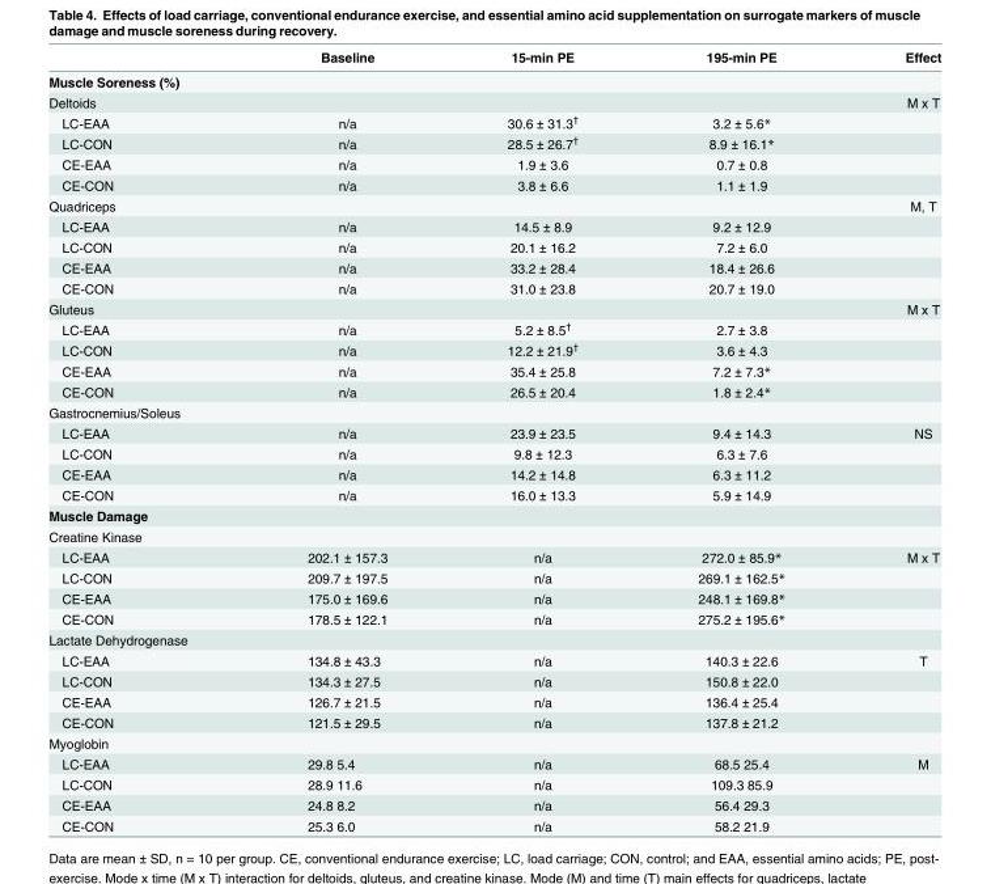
<table><thead><tr><td></td><td>Baseline</td><td>15-min PE</td><td>195-min PE</td><td>Effect</td></tr></thead><tbody><tr><td colspan="5">Muscle Soreness (%)</td></tr><tr><td>Deltoids</td><td></td><td></td><td></td><td>M x T</td></tr><tr><td>LC-EAA</td><td>n/a</td><td>30.6 ± 31.3<sup>†</sup></td><td>3.2 ± 5.6*</td><td></td></tr><tr><td>LC-CON</td><td>n/a</td><td>28.5 ± 26.7<sup>†</sup></td><td>8.9 ± 16.1*</td><td></td></tr><tr><td>CE-EAA</td><td>n/a</td><td>1.9 ± 3.6</td><td>0.7 ± 0.8</td><td></td></tr><tr><td>CE-CON</td><td>n/a</td><td>3.8 ± 6.6</td><td>1.1 ± 1.9</td><td></td></tr><tr><td>Quadriceps</td><td></td><td></td><td></td><td>M, T</td></tr><tr><td>LC-EAA</td><td>n/a</td><td>14.5 ± 8.9</td><td>9.2 ± 12.9</td><td></td></tr><tr><td>LC-CON</td><td>n/a</td><td>20.1 ± 16.2</td><td>7.2 ± 6.0</td><td></td></tr><tr><td>CE-EAA</td><td>n/a</td><td>33.2 ± 28.4</td><td>18.4 ± 26.6</td><td></td></tr><tr><td>CE-CON</td><td>n/a</td><td>31.0 ± 23.8</td><td>20.7 ± 19.0</td><td></td></tr><tr><td>Gluteus</td><td></td><td></td><td></td><td>M x T</td></tr><tr><td>LC-EAA</td><td>n/a</td><td>5.2 ± 8.5<sup>†</sup></td><td>2.7 ± 3.8</td><td></td></tr><tr><td>LC-CON</td><td>n/a</td><td>12.2 ± 21.9<sup>†</sup></td><td>3.6 ± 4.3</td><td></td></tr><tr><td>CE-EAA</td><td>n/a</td><td>35.4 ± 25.8</td><td>7.2 ± 7.3*</td><td></td></tr><tr><td>CE-CON</td><td>n/a</td><td>26.5 ± 20.4</td><td>1.8 ± 2.4*</td><td></td></tr><tr><td colspan="5">Gastrocnemius/Soleus</td></tr><tr><td>LC-EAA</td><td>n/a</td><td>23.9 ± 23.5</td><td>9.4 ± 14.3</td><td>NS</td></tr><tr><td>LC-CON</td><td>n/a</td><td>9.8 ± 12.3</td><td>6.3 ± 7.6</td><td></td></tr><tr><td>CE-EAA</td><td>n/a</td><td>14.2 ± 14.8</td><td>6.3 ± 11.2</td><td></td></tr><tr><td>CE-CON</td><td>n/a</td><td>16.0 ± 13.3</td><td>5.9 ± 14.9</td><td></td></tr><tr><td colspan="5">Muscle Damage</td></tr><tr><td colspan="5">Creatine Kinase</td></tr><tr><td>LC-EAA</td><td>202.1 ± 157.3</td><td>n/a</td><td>272.0 ± 85.9*</td><td>M x T</td></tr><tr><td>LC-CON</td><td>209.7 ± 197.5</td><td>n/a</td><td>269.1 ± 162.5*</td><td></td></tr><tr><td>CE-EAA</td><td>175.0 ± 169.6</td><td>n/a</td><td>248.1 ± 169.8*</td><td></td></tr><tr><td>CE-CON</td><td>178.5 ± 122.1</td><td>n/a</td><td>275.2 ± 195.6*</td><td></td></tr><tr><td colspan="5">Lactate Dehydrogenase</td></tr><tr><td>LC-EAA</td><td>134.8 ± 43.3</td><td>n/a</td><td>140.3 ± 22.6</td><td>T</td></tr><tr><td>LC-CON</td><td>134.3 ± 27.5</td><td>n/a</td><td>150.8 ± 22.0</td><td></td></tr><tr><td>CE-EAA</td><td>126.7 ± 21.5</td><td>n/a</td><td>136.4 ± 25.4</td><td></td></tr><tr><td>CE-CON</td><td>121.5 ± 29.5</td><td>n/a</td><td>137.8 ± 21.2</td><td></td></tr><tr><td colspan="5">Myoglobin</td></tr><tr><td>LC-EAA</td><td>29.8 5.4</td><td>n/a</td><td>68.5 25.4</td><td>M</td></tr><tr><td>LC-CON</td><td>28.9 11.6</td><td>n/a</td><td>109.3 85.9</td><td></td></tr><tr><td>CE-EAA</td><td>24.8 8.2</td><td>n/a</td><td>56.4 29.3</td><td></td></tr><tr><td>CE-CON</td><td>25.3 6.0</td><td>n/a</td><td>58.2 21.9</td><td></td></tr></tbody></table>